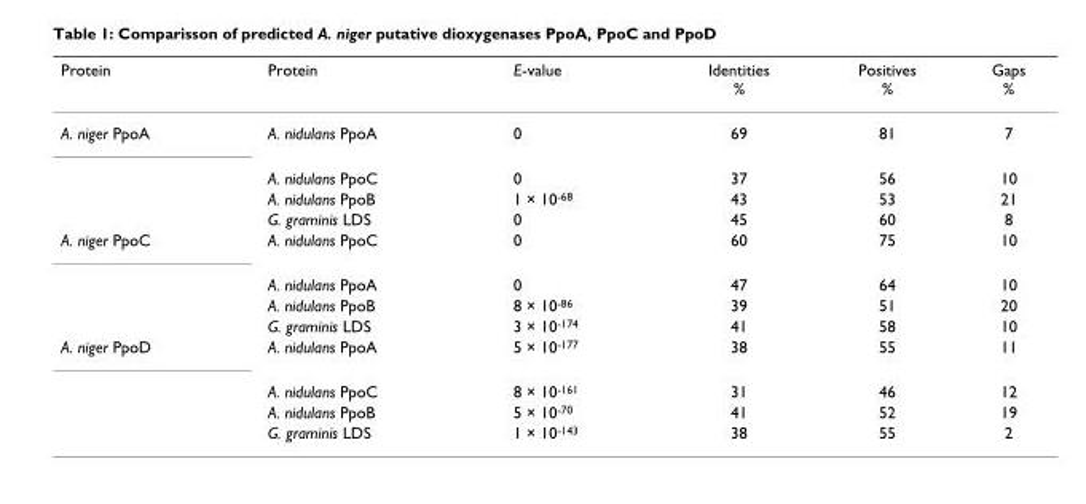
<table><thead><tr><td>Protein</td><td>Protein</td><td>E-value</td><td>Identities %</td><td>Positives %</td><td>Gaps %</td></tr></thead><tbody><tr><td rowspan="4">A. niger PpoA</td><td>A. nidulans PpoA</td><td>0</td><td>69</td><td>81</td><td>7</td></tr><tr><td>A. nidulans PpoC</td><td>0</td><td>37</td><td>56</td><td>10</td></tr><tr><td>A. nidulans PpoB</td><td>1 × 10<sup>-68</sup></td><td>43</td><td>53</td><td>21</td></tr><tr><td>G. graminis LDS</td><td>0</td><td>45</td><td>60</td><td>8</td></tr><tr><td rowspan="4">A. niger PpoC</td><td>A. nidulans PpoC</td><td>0</td><td>60</td><td>75</td><td>10</td></tr><tr><td>A. nidulans PpoA</td><td>0</td><td>47</td><td>64</td><td>10</td></tr><tr><td>A. nidulans PpoB</td><td>8 × 10<sup>-86</sup></td><td>39</td><td>51</td><td>20</td></tr><tr><td>G. graminis LDS</td><td>3 × 10<sup>-174</sup></td><td>41</td><td>58</td><td>10</td></tr><tr><td rowspan="4">A. niger PpoD</td><td>A. nidulans PpoA</td><td>5 × 10<sup>-177</sup></td><td>38</td><td>55</td><td>11</td></tr><tr><td>A. nidulans PpoC</td><td>8 × 10<sup>-161</sup></td><td>31</td><td>46</td><td>12</td></tr><tr><td>A. nidulans PpoB</td><td>5 × 10<sup>-70</sup></td><td>41</td><td>52</td><td>19</td></tr><tr><td>G. graminis LDS</td><td>1 × 10<sup>-143</sup></td><td>38</td><td>55</td><td>2</td></tr></tbody></table>